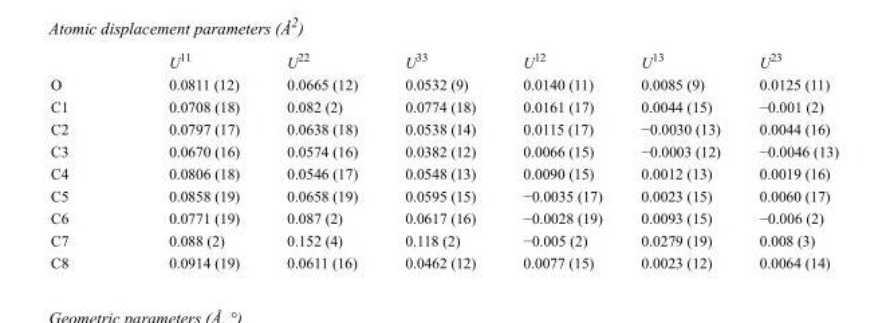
<table><thead><tr><td></td><td>U<sup>11</sup></td><td>U<sup>22</sup></td><td>U<sup>33</sup></td><td>U<sup>12</sup></td><td>U<sup>13</sup></td><td>U<sup>23</sup></td></tr></thead><tbody><tr><td>O</td><td>0.0811 (12)</td><td>0.0665 (12)</td><td>0.0532 (9)</td><td>0.0140 (11)</td><td>0.0085 (9)</td><td>0.0125 (11)</td></tr><tr><td>C1</td><td>0.0708 (18)</td><td>0.082 (2)</td><td>0.0774 (18)</td><td>0.0161 (17)</td><td>0.0044 (15)</td><td>−0.001 (2)</td></tr><tr><td>C2</td><td>0.0797 (17)</td><td>0.0638 (18)</td><td>0.0538 (14)</td><td>0.0115 (17)</td><td>−0.0030 (13)</td><td>0.0044 (16)</td></tr><tr><td>C3</td><td>0.0670 (16)</td><td>0.0574 (16)</td><td>0.0382 (12)</td><td>0.0066 (15)</td><td>−0.0003 (12)</td><td>−0.0046 (13)</td></tr><tr><td>C4</td><td>0.0806 (18)</td><td>0.0546 (17)</td><td>0.0548 (13)</td><td>0.0090 (15)</td><td>0.0012 (13)</td><td>0.0019 (16)</td></tr><tr><td>C5</td><td>0.0858 (19)</td><td>0.0658 (19)</td><td>0.0595 (15)</td><td>−0.0035 (17)</td><td>0.0023 (15)</td><td>0.0060 (17)</td></tr><tr><td>C6</td><td>0.0771 (19)</td><td>0.087 (2)</td><td>0.0617 (16)</td><td>−0.0028 (19)</td><td>0.0093 (15)</td><td>−0.006 (2)</td></tr><tr><td>C7</td><td>0.088 (2)</td><td>0.152 (4)</td><td>0.118 (2)</td><td>−0.005 (2)</td><td>0.0279 (19)</td><td>0.008 (3)</td></tr><tr><td>C8</td><td>0.0914 (19)</td><td>0.0611 (16)</td><td>0.0462 (12)</td><td>0.0077 (15)</td><td>0.0023 (12)</td><td>0.0064 (14)</td></tr></tbody></table>